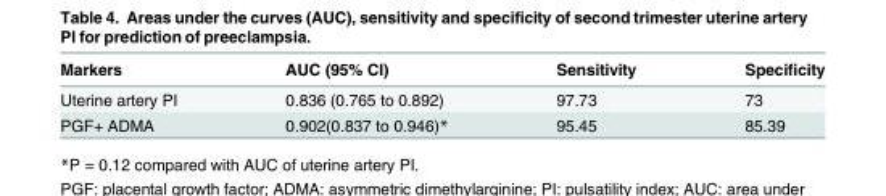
<table><thead><tr><td>Markers</td><td>AUC (95% CI)</td><td>Sensitivity</td><td>Specificity</td></tr></thead><tbody><tr><td>Uterine artery PI</td><td>0.836 (0.765 to 0.892)</td><td>97.73</td><td>73</td></tr><tr><td>PGF+ ADMA</td><td>0.902(0.837 to 0.946)*</td><td>95.45</td><td>85.39</td></tr></tbody></table>